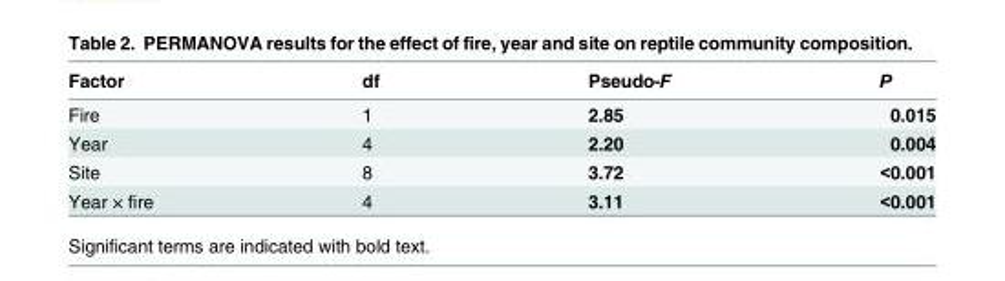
<table><thead><tr><td>Factor</td><td>df</td><td>Pseudo-F</td><td>P</td></tr></thead><tbody><tr><td>Fire</td><td>1</td><td>2.85</td><td>0.015</td></tr><tr><td>Year</td><td>4</td><td>2.20</td><td>0.004</td></tr><tr><td>Site</td><td>8</td><td>3.72</td><td>&lt;0.001</td></tr><tr><td>Year × fire</td><td>4</td><td>3.11</td><td>&lt;0.001</td></tr></tbody></table>